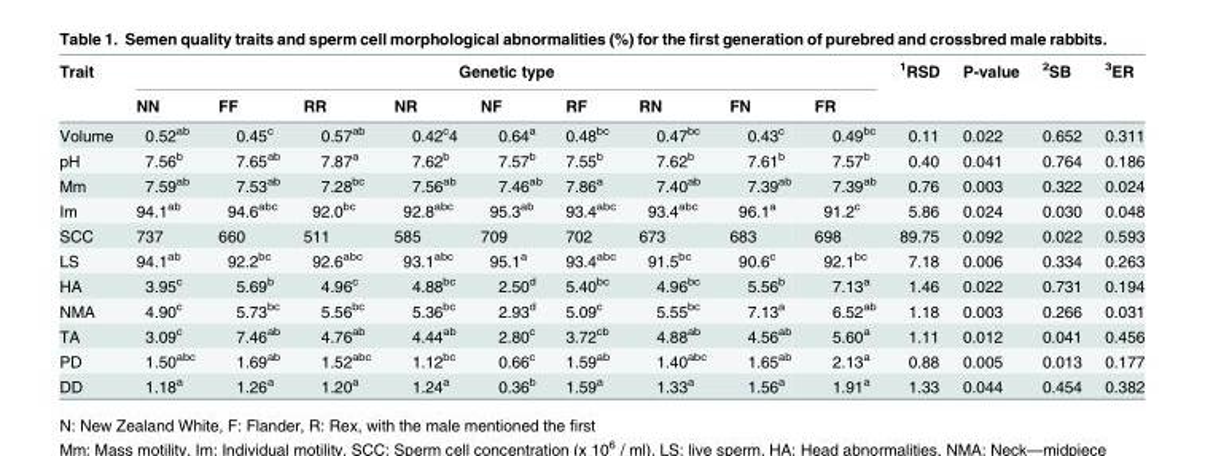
<table><thead><tr><td rowspan="2">Trait</td><td colspan="9">Genetic type</td><td rowspan="2"><sup>1</sup>RSD</td><td rowspan="2">P-value</td><td rowspan="2"><sup>2</sup>SB</td><td rowspan="2"><sup>3</sup>ER</td></tr><tr><td>NN</td><td>FF</td><td>RR</td><td>NR</td><td>NF</td><td>RF</td><td>RN</td><td>FN</td><td>FR</td></tr></thead><tbody><tr><td>Volume</td><td>0.52<sup>ab</sup></td><td>0.45<sup>c</sup></td><td>0.57<sup>ab</sup></td><td>0.42<sup>c</sup>4</td><td>0.64<sup>a</sup></td><td>0.48<sup>bc</sup></td><td>0.47<sup>bc</sup></td><td>0.43<sup>c</sup></td><td>0.49<sup>bc</sup></td><td>0.11</td><td>0.022</td><td>0.652</td><td>0.311</td></tr><tr><td>pH</td><td>7.56<sup>b</sup></td><td>7.65<sup>ab</sup></td><td>7.87<sup>a</sup></td><td>7.62<sup>b</sup></td><td>7.57<sup>b</sup></td><td>7.55<sup>b</sup></td><td>7.62<sup>b</sup></td><td>7.61<sup>b</sup></td><td>7.57<sup>b</sup></td><td>0.40</td><td>0.041</td><td>0.764</td><td>0.186</td></tr><tr><td>Mm</td><td>7.59<sup>ab</sup></td><td>7.53<sup>ab</sup></td><td>7.28<sup>bc</sup></td><td>7.56<sup>ab</sup></td><td>7.46<sup>ab</sup></td><td>7.86<sup>a</sup></td><td>7.40<sup>ab</sup></td><td>7.39<sup>ab</sup></td><td>7.39<sup>ab</sup></td><td>0.76</td><td>0.003</td><td>0.322</td><td>0.024</td></tr><tr><td>Im</td><td>94.1<sup>ab</sup></td><td>94.6<sup>abc</sup></td><td>92.0<sup>bc</sup></td><td>92.8<sup>abc</sup></td><td>95.3<sup>ab</sup></td><td>93.4<sup>abc</sup></td><td>93.4<sup>abc</sup></td><td>96.1<sup>a</sup></td><td>91.2<sup>c</sup></td><td>5.86</td><td>0.024</td><td>0.030</td><td>0.048</td></tr><tr><td>SCC</td><td>737</td><td>660</td><td>511</td><td>585</td><td>709</td><td>702</td><td>673</td><td>683</td><td>698</td><td>89.75</td><td>0.092</td><td>0.022</td><td>0.593</td></tr><tr><td>LS</td><td>94.1<sup>ab</sup></td><td>92.2<sup>bc</sup></td><td>92.6<sup>abc</sup></td><td>93.1<sup>abc</sup></td><td>95.1<sup>a</sup></td><td>93.4<sup>abc</sup></td><td>91.5<sup>bc</sup></td><td>90.6<sup>c</sup></td><td>92.1<sup>bc</sup></td><td>7.18</td><td>0.006</td><td>0.334</td><td>0.263</td></tr><tr><td>HA</td><td>3.95<sup>c</sup></td><td>5.69<sup>b</sup></td><td>4.96<sup>c</sup></td><td>4.88<sup>bc</sup></td><td>2.50<sup>d</sup></td><td>5.40<sup>bc</sup></td><td>4.96<sup>bc</sup></td><td>5.56<sup>b</sup></td><td>7.13<sup>a</sup></td><td>1.46</td><td>0.022</td><td>0.731</td><td>0.194</td></tr><tr><td>NMA</td><td>4.90<sup>c</sup></td><td>5.73<sup>bc</sup></td><td>5.56<sup>bc</sup></td><td>5.36<sup>bc</sup></td><td>2.93<sup>d</sup></td><td>5.09<sup>c</sup></td><td>5.55<sup>bc</sup></td><td>7.13<sup>a</sup></td><td>6.52<sup>ab</sup></td><td>1.18</td><td>0.003</td><td>0.266</td><td>0.031</td></tr><tr><td>TA</td><td>3.09<sup>c</sup></td><td>7.46<sup>ab</sup></td><td>4.76<sup>ab</sup></td><td>4.44<sup>ab</sup></td><td>2.80<sup>c</sup></td><td>3.72<sup>cb</sup></td><td>4.88<sup>ab</sup></td><td>4.56<sup>ab</sup></td><td>5.60<sup>a</sup></td><td>1.11</td><td>0.012</td><td>0.041</td><td>0.456</td></tr><tr><td>PD</td><td>1.50<sup>abc</sup></td><td>1.69<sup>ab</sup></td><td>1.52<sup>abc</sup></td><td>1.12<sup>bc</sup></td><td>0.66<sup>c</sup></td><td>1.59<sup>ab</sup></td><td>1.40<sup>abc</sup></td><td>1.65<sup>ab</sup></td><td>2.13<sup>a</sup></td><td>0.88</td><td>0.005</td><td>0.013</td><td>0.177</td></tr><tr><td>DD</td><td>1.18<sup>a</sup></td><td>1.26<sup>a</sup></td><td>1.20<sup>a</sup></td><td>1.24<sup>a</sup></td><td>0.36<sup>b</sup></td><td>1.59<sup>a</sup></td><td>1.33<sup>a</sup></td><td>1.56<sup>a</sup></td><td>1.91<sup>a</sup></td><td>1.33</td><td>0.044</td><td>0.454</td><td>0.382</td></tr></tbody></table>